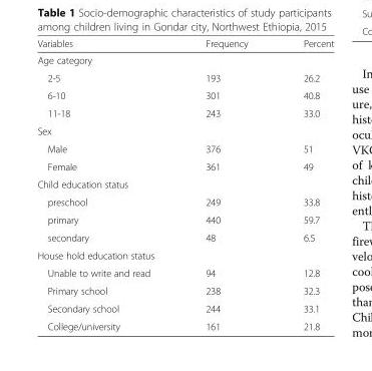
<table><thead><tr><td>Variables</td><td>Frequency</td><td>Percent</td></tr></thead><tbody><tr><td colspan="3">Age category</td></tr><tr><td>2-5</td><td>193</td><td>26.2</td></tr><tr><td>6-10</td><td>301</td><td>40.8</td></tr><tr><td>11-18</td><td>243</td><td>33.0</td></tr><tr><td colspan="3">Sex</td></tr><tr><td>Male</td><td>376</td><td>51</td></tr><tr><td>Female</td><td>361</td><td>49</td></tr><tr><td colspan="3">Child education status</td></tr><tr><td>preschool</td><td>249</td><td>33.8</td></tr><tr><td>primary</td><td>440</td><td>59.7</td></tr><tr><td>secondary</td><td>48</td><td>6.5</td></tr><tr><td colspan="3">House hold education status</td></tr><tr><td>Unable to write and read</td><td>94</td><td>12.8</td></tr><tr><td>Primary school</td><td>238</td><td>32.3</td></tr><tr><td>Secondary school</td><td>244</td><td>33.1</td></tr><tr><td>College/university</td><td>161</td><td>21.8</td></tr></tbody></table>